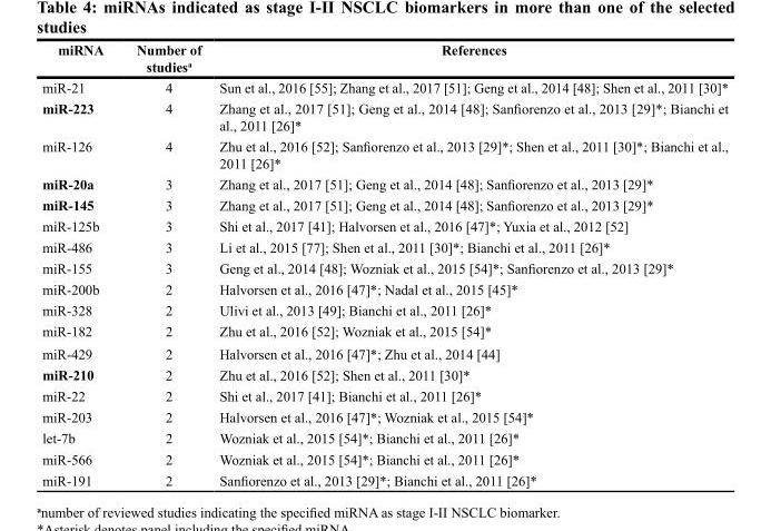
<table><thead><tr><td>miRNA</td><td>Number of studies<sup>a</sup></td><td>References</td></tr></thead><tbody><tr><td>miR-21</td><td>4</td><td>Sun et al., 2016 [55]; Zhang et al., 2017 [51]; Geng et al., 2014 [48]; Shen et al., 2011 [30]*</td></tr><tr><td>miR-223</td><td>4</td><td>Zhang et al., 2017 [51]; Geng et al., 2014 [48]; Sanfiorenzo et al., 2013 [29]*; Bianchi et al., 2011 [26]*</td></tr><tr><td>miR-126</td><td>4</td><td>Zhu et al., 2016 [52]; Sanfiorenzo et al., 2013 [29]*; Shen et al., 2011 [30]*; Bianchi et al., 2011 [26]*</td></tr><tr><td>miR-20a</td><td>3</td><td>Zhang et al., 2017 [51]; Geng et al., 2014 [48]; Sanfiorenzo et al., 2013 [29]*</td></tr><tr><td>miR-145</td><td>3</td><td>Zhang et al., 2017 [51]; Geng et al., 2014 [48]; Sanfiorenzo et al., 2013 [29]*</td></tr><tr><td>miR-125b</td><td>3</td><td>Shi et al., 2017 [41]; Halvorsen et al., 2016 [47]*; Yuxia et al., 2012 [52]</td></tr><tr><td>miR-486</td><td>3</td><td>Li et al., 2015 [77]; Shen et al., 2011 [30]*; Bianchi et al., 2011 [26]*</td></tr><tr><td>miR-155</td><td>3</td><td>Geng et al., 2014 [48]; Wozniak et al., 2015 [54]*; Sanfiorenzo et al., 2013 [29]*</td></tr><tr><td>miR-200b</td><td>2</td><td>Halvorsen et al., 2016 [47]*; Nadal et al., 2015 [45]*</td></tr><tr><td>miR-328</td><td>2</td><td>Ulivi et al., 2013 [49]; Bianchi et al., 2011 [26]*</td></tr><tr><td>miR-182</td><td>2</td><td>Zhu et al., 2016 [52]; Wozniak et al., 2015 [54]*</td></tr><tr><td>miR-429</td><td>2</td><td>Halvorsen et al., 2016 [47]*; Zhu et al., 2014 [44]</td></tr><tr><td>miR-210</td><td>2</td><td>Zhu et al., 2016 [52]; Shen et al., 2011 [30]*</td></tr><tr><td>miR-22</td><td>2</td><td>Shi et al., 2017 [41]; Bianchi et al., 2011 [26]*</td></tr><tr><td>miR-203</td><td>2</td><td>Halvorsen et al., 2016 [47]*; Wozniak et al., 2015 [54]*</td></tr><tr><td>let-7b</td><td>2</td><td>Wozniak et al., 2015 [54]*; Bianchi et al., 2011 [26]*</td></tr><tr><td>miR-566</td><td>2</td><td>Wozniak et al., 2015 [54]*; Bianchi et al., 2011 [26]*</td></tr><tr><td>miR-191</td><td>2</td><td>Sanfiorenzo et al., 2013 [29]*; Bianchi et al., 2011 [26]*</td></tr></tbody></table>